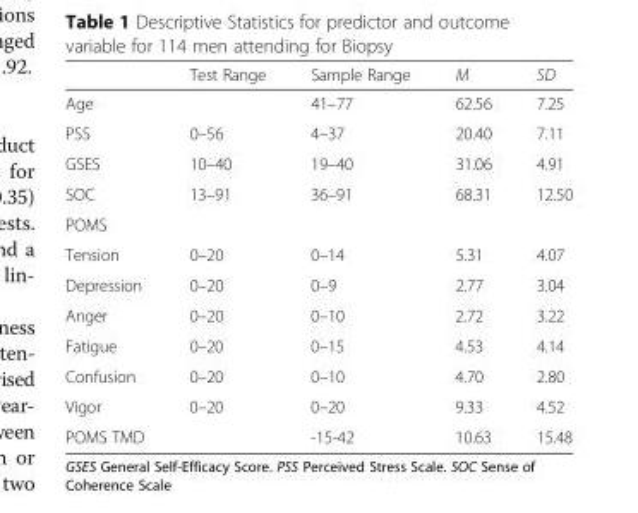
<table><thead><tr><td></td><td>Test Range</td><td>Sample Range</td><td>M</td><td>SD</td></tr></thead><tbody><tr><td>Age</td><td></td><td>41–77</td><td>62.56</td><td>7.25</td></tr><tr><td>PSS</td><td>0–56</td><td>4–37</td><td>20.40</td><td>7.11</td></tr><tr><td>GSES</td><td>10–40</td><td>19–40</td><td>31.06</td><td>4.91</td></tr><tr><td>SOC</td><td>13–91</td><td>36–91</td><td>68.31</td><td>12.50</td></tr><tr><td colspan="5">POMS</td></tr><tr><td>Tension</td><td>0–20</td><td>0–14</td><td>5.31</td><td>4.07</td></tr><tr><td>Depression</td><td>0–20</td><td>0–9</td><td>2.77</td><td>3.04</td></tr><tr><td>Anger</td><td>0–20</td><td>0–10</td><td>2.72</td><td>3.22</td></tr><tr><td>Fatigue</td><td>0–20</td><td>0–15</td><td>4.53</td><td>4.14</td></tr><tr><td>Confusion</td><td>0–20</td><td>0–10</td><td>4.70</td><td>2.80</td></tr><tr><td>Vigor</td><td>0–20</td><td>0–20</td><td>9.33</td><td>4.52</td></tr><tr><td>POMS TMD</td><td></td><td>-15-42</td><td>10.63</td><td>15.48</td></tr></tbody></table>